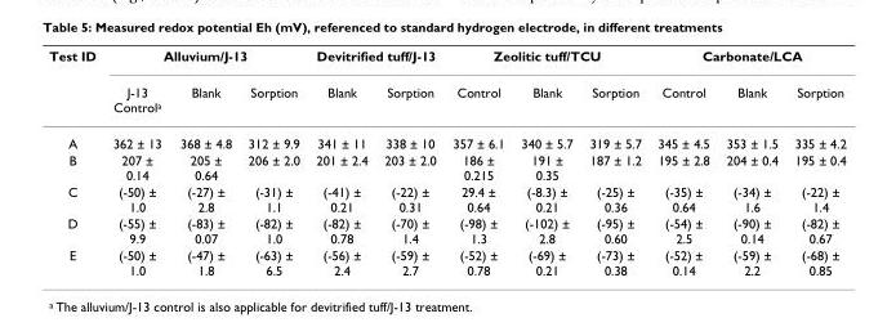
<table><thead><tr><td rowspan="2">Test ID</td><td colspan="3">Alluvium/J-13</td><td colspan="2">Devitrified tuff/J-13</td><td colspan="3">Zeolitic tuff/TCU</td><td colspan="3">Carbonate/LCA</td></tr><tr><td>J-13 Control<sup>a</sup></td><td>Blank</td><td>Sorption</td><td>Blank</td><td>Sorption</td><td>Control</td><td>Blank</td><td>Sorption</td><td>Control</td><td>Blank</td><td>Sorption</td></tr></thead><tbody><tr><td>A</td><td>362 ± 13</td><td>368 ± 4.8</td><td>312 ± 9.9</td><td>341 ± 11</td><td>338 ± 10</td><td>357 ± 6.1</td><td>340 ± 5.7</td><td>319 ± 5.7</td><td>345 ± 4.5</td><td>353 ± 1.5</td><td>335 ± 4.2</td></tr><tr><td>B</td><td>207 ± 0.14</td><td>205 ± 0.64</td><td>206 ± 2.0</td><td>201 ± 2.4</td><td>203 ± 2.0</td><td>186 ± 0.215</td><td>191 ± 0.35</td><td>187 ± 1.2</td><td>195 ± 2.8</td><td>204 ± 0.4</td><td>195 ± 0.4</td></tr><tr><td>C</td><td>(-50) ± 1.0</td><td>(-27) ± 2.8</td><td>(-31) ± 1.1</td><td>(-41) ± 0.21</td><td>(-22) ± 0.31</td><td>29.4 ± 0.64</td><td>(-8.3) ± 0.21</td><td>(-25) ± 0.36</td><td>(-35) ± 0.64</td><td>(-34) ± 1.6</td><td>(-22) ± 1.4</td></tr><tr><td>D</td><td>(-55) ± 9.9</td><td>(-83) ± 0.07</td><td>(-82) ± 1.0</td><td>(-82) ± 0.78</td><td>(-70) ± 1.4</td><td>(-98) ± 1.3</td><td>(-102) ± 2.8</td><td>(-95) ± 0.60</td><td>(-54) ± 2.5</td><td>(-90) ± 0.14</td><td>(-82) ± 0.67</td></tr><tr><td>E</td><td>(-50) ± 1.0</td><td>(-47) ± 1.8</td><td>(-63) ± 6.5</td><td>(-56) ± 2.4</td><td>(-59) ± 2.7</td><td>(-52) ± 0.78</td><td>(-69) ± 0.21</td><td>(-73) ± 0.38</td><td>(-52) ± 0.14</td><td>(-59) ± 2.2</td><td>(-68) ± 0.85</td></tr></tbody></table>